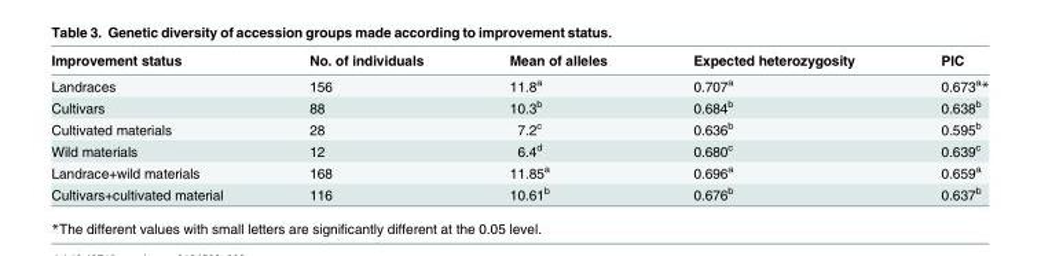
<table><thead><tr><td>Improvement status</td><td>No. of individuals</td><td>Mean of alleles</td><td>Expected heterozygosity</td><td>PIC</td></tr></thead><tbody><tr><td>Landraces</td><td>156</td><td>11.8<sup>a</sup></td><td>0.707<sup>a</sup></td><td>0.673<sup>a</sup>*</td></tr><tr><td>Cultivars</td><td>88</td><td>10.3<sup>b</sup></td><td>0.684<sup>b</sup></td><td>0.638<sup>b</sup></td></tr><tr><td>Cultivated materials</td><td>28</td><td>7.2<sup>c</sup></td><td>0.636<sup>b</sup></td><td>0.595<sup>b</sup></td></tr><tr><td>Wild materials</td><td>12</td><td>6.4<sup>d</sup></td><td>0.680<sup>c</sup></td><td>0.639<sup>c</sup></td></tr><tr><td>Landrace+wild materials</td><td>168</td><td>11.85<sup>a</sup></td><td>0.696<sup>a</sup></td><td>0.659<sup>a</sup></td></tr><tr><td>Cultivars+cultivated material</td><td>116</td><td>10.61<sup>b</sup></td><td>0.676<sup>b</sup></td><td>0.637<sup>b</sup></td></tr></tbody></table>